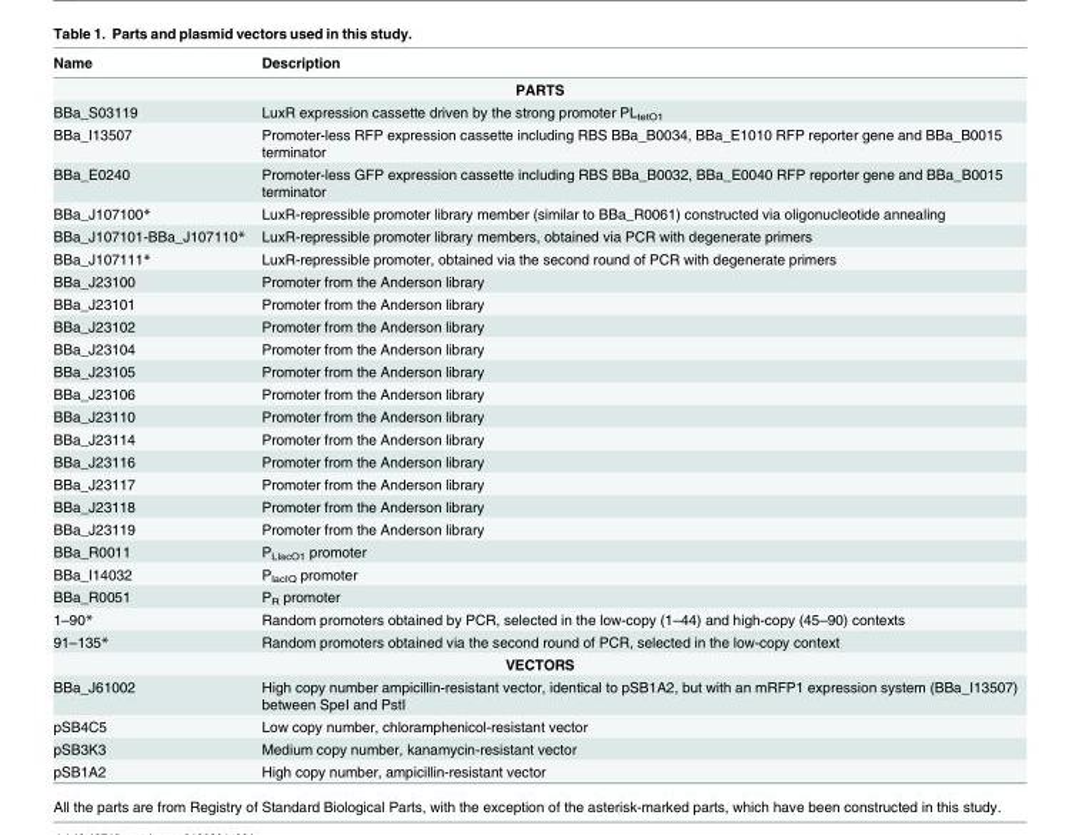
<table><thead><tr><td>Name</td><td>Description</td></tr></thead><tbody><tr><td colspan="2">PARTS</td></tr><tr><td>BBa_S03119</td><td>LuxR expression cassette driven by the strong promoter PL<sub>tetO1</sub></td></tr><tr><td>BBa_I13507</td><td>Promoter-less RFP expression cassette including RBS BBa_B0034, BBa_E1010 RFP reporter gene and BBa_B0015 terminator</td></tr><tr><td>BBa_E0240</td><td>Promoter-less GFP expression cassette including RBS BBa_B0032, BBa_E0040 RFP reporter gene and BBa_B0015 terminator</td></tr><tr><td>BBa_J107100*</td><td>LuxR-repressible promoter library member (similar to BBa_R0061) constructed via oligonucleotide annealing</td></tr><tr><td>BBa_J107101-BBa_J107110*</td><td>LuxR-repressible promoter library members, obtained via PCR with degenerate primers</td></tr><tr><td>BBa_J107111*</td><td>LuxR-repressible promoter, obtained via the second round of PCR with degenerate primers</td></tr><tr><td>BBa_J23100</td><td>Promoter from the Anderson library</td></tr><tr><td>BBa_J23101</td><td>Promoter from the Anderson library</td></tr><tr><td>BBa_J23102</td><td>Promoter from the Anderson library</td></tr><tr><td>BBa_J23104</td><td>Promoter from the Anderson library</td></tr><tr><td>BBa_J23105</td><td>Promoter from the Anderson library</td></tr><tr><td>BBa_J23106</td><td>Promoter from the Anderson library</td></tr><tr><td>BBa_J23110</td><td>Promoter from the Anderson library</td></tr><tr><td>BBa_J23114</td><td>Promoter from the Anderson library</td></tr><tr><td>BBa_J23116</td><td>Promoter from the Anderson library</td></tr><tr><td>BBa_J23117</td><td>Promoter from the Anderson library</td></tr><tr><td>BBa_J23118</td><td>Promoter from the Anderson library</td></tr><tr><td>BBa_J23119</td><td>Promoter from the Anderson library</td></tr><tr><td>BBa_R0011</td><td>P<sub>LlacO1</sub> promoter</td></tr><tr><td>BBa_I14032</td><td>P<sub>lacIQ</sub> promoter</td></tr><tr><td>BBa_R0051</td><td>P<sub>R</sub> promoter</td></tr><tr><td>1–90*</td><td>Random promoters obtained by PCR, selected in the low-copy (1–44) and high-copy (45–90) contexts</td></tr><tr><td>91–135*</td><td>Random promoters obtained via the second round of PCR, selected in the low-copy context</td></tr><tr><td colspan="2">VECTORS</td></tr><tr><td>BBa_J61002</td><td>High copy number ampicillin-resistant vector, identical to pSB1A2, but with an mRFP1 expression system (BBa_I13507) between SpeI and PstI</td></tr><tr><td>pSB4C5</td><td>Low copy number, chloramphenicol-resistant vector</td></tr><tr><td>pSB3K3</td><td>Medium copy number, kanamycin-resistant vector</td></tr><tr><td>pSB1A2</td><td>High copy number, ampicillin-resistant vector</td></tr></tbody></table>